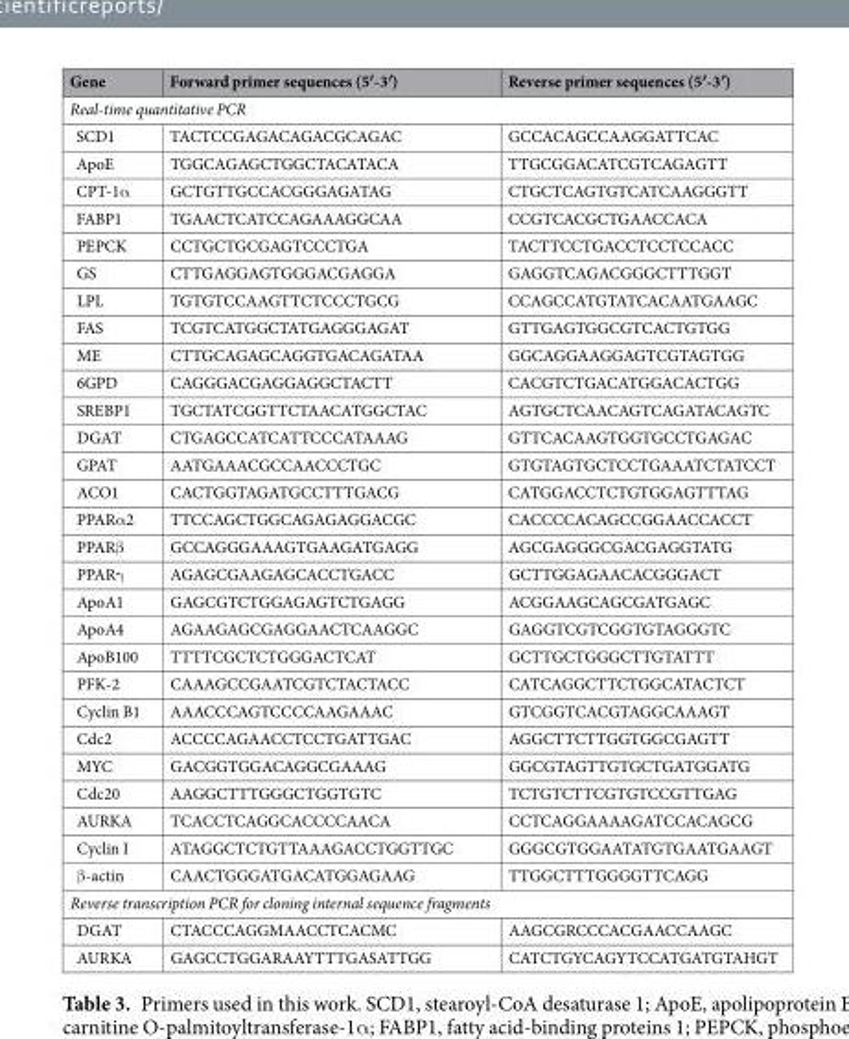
<table><thead><tr><td>Gene</td><td>Forward primer sequences (5′-3′)</td><td>Reverse primer sequences (5′-3′)</td></tr></thead><tbody><tr><td colspan="3">Real-time quantitative PCR</td></tr><tr><td>SCD1</td><td>TACTCCGAGACAGACGCAGAC</td><td>GCCACAGCCAAGGATTCAC</td></tr><tr><td>ApoE</td><td>TGGCAGAGCTGGCTACATACA</td><td>TTGCGGACATCGTCAGAGTT</td></tr><tr><td>CPT-1α</td><td>GCTGTTGCCACGGGAGATAG</td><td>CTGCTCAGTGTCATCAAGGGTT</td></tr><tr><td>FABP1</td><td>TGAACTCATCCAGAAAGGCAA</td><td>CCGTCACGCTGAACCACA</td></tr><tr><td>PEPCK</td><td>CCTGCTGCGAGTCCCTGA</td><td>TACTTCCTGACCTCCTCCACC</td></tr><tr><td>GS</td><td>CTTGAGGAGTGGGACGAGGA</td><td>GAGGTCAGACGGGCTTTGGT</td></tr><tr><td>LPL</td><td>TGTGTCCAAGTTCTCCCTGCG</td><td>CCAGCCATGTATCACAATGAAGC</td></tr><tr><td>FAS</td><td>TCGTCATGGCTATGAGGGAGAT</td><td>GTTGAGTGGCGTCACTGTGG</td></tr><tr><td>ME</td><td>CTTGCAGAGCAGGTGACAGATAA</td><td>GGCAGGAAGGAGTCGTAGTGG</td></tr><tr><td>6GPD</td><td>CAGGGACGAGGAGGCTACTT</td><td>CACGTCTGACATGGACACTGG</td></tr><tr><td>SREBP1</td><td>TGCTATCGGTTCTAACATGGCTAC</td><td>AGTGCTCAACAGTCAGATACAGTC</td></tr><tr><td>DGAT</td><td>CTGAGCCATCATTCCCATAAAG</td><td>GTTCACAAGTGGTGCCTGAGAC</td></tr><tr><td>GPAT</td><td>AATGAAACGCCAACCCTGC</td><td>GTGTAGTGCTCCTGAAATCTATCCT</td></tr><tr><td>ACO1</td><td>CACTGGTAGATGCCTTTGACG</td><td>CATGGACCTCTGTGGAGTTTAG</td></tr><tr><td>PPARα2</td><td>TTCCAGCTGGCAGAGAGGACGC</td><td>CACCCCACAGCCGGAACCACCT</td></tr><tr><td>PPARβ</td><td>GCCAGGGAAAGTGAAGATGAGG</td><td>AGCGAGGGCGACGAGGTATG</td></tr><tr><td>PPARγ</td><td>AGAGCGAAGAGCACCTGACC</td><td>GCTTGGAGAACACGGGACT</td></tr><tr><td>ApoA1</td><td>GAGCGTCTGGAGAGTCTGAGG</td><td>ACGGAAGCAGCGATGAGC</td></tr><tr><td>ApoA4</td><td>AGAAGAGCGAGGAACTCAAGGC</td><td>GAGGTCGTCGGTGTAGGGTC</td></tr><tr><td>ApoB100</td><td>TTTTCGCTCTGGGACTCAT</td><td>GCTTGCTGGGCTTGTATTT</td></tr><tr><td>PFK-2</td><td>CAAAGCCGAATCGTCTACTACC</td><td>CATCAGGCTTCTGGCATACTCT</td></tr><tr><td>Cyclin B1</td><td>AAACCCAGTCCCCAAGAAAC</td><td>GTCGGTCACGTAGGCAAAGT</td></tr><tr><td>Cdc2</td><td>ACCCCAGAACCTCCTGATTGAC</td><td>AGGCTTCTTGGTGGCGAGTT</td></tr><tr><td>MYC</td><td>GACGGTGGACAGGCGAAAG</td><td>GGCGTAGTTGTGCTGATGGATG</td></tr><tr><td>Cdc20</td><td>AAGGCTTTGGGCTGGTGTC</td><td>TCTGTCTTCGTGTCCGTTGAG</td></tr><tr><td>AURKA</td><td>TCACCTCAGGCACCCCAACA</td><td>CCTCAGGAAAAGATCCACAGCG</td></tr><tr><td>Cyclin I</td><td>ATAGGCTCTGTTAAAGACCTGGTTGC</td><td>GGGCGTGGAATATGTGAATGAAGT</td></tr><tr><td>β-actin</td><td>CAACTGGGATGACATGGAGAAG</td><td>TTGGCTTTGGGGTTCAGG</td></tr><tr><td colspan="3">Reverse transcription PCR for cloning internal sequence fragments</td></tr><tr><td>DGAT</td><td>CTACCCAGGMAACCTCACMC</td><td>AAGCGRCCCACGAACCAAGC</td></tr><tr><td>AURKA</td><td>GAGCCTGGARAAYTTTGASATTGG</td><td>CATCTGYCAGYTCCATGATGTAHGT</td></tr></tbody></table>